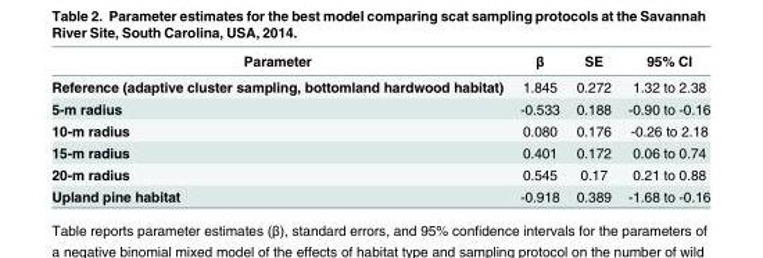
<table><thead><tr><td>Parameter</td><td>β</td><td>SE</td><td>95% CI</td></tr></thead><tbody><tr><td>Reference (adaptive cluster sampling, bottomland hardwood habitat)</td><td>1.845</td><td>0.272</td><td>1.32 to 2.38</td></tr><tr><td>5-m radius</td><td>-0.533</td><td>0.188</td><td>-0.90 to -0.16</td></tr><tr><td>10-m radius</td><td>0.080</td><td>0.176</td><td>-0.26 to 2.18</td></tr><tr><td>15-m radius</td><td>0.401</td><td>0.172</td><td>0.06 to 0.74</td></tr><tr><td>20-m radius</td><td>0.545</td><td>0.17</td><td>0.21 to 0.88</td></tr><tr><td>Upland pine habitat</td><td>-0.918</td><td>0.389</td><td>-1.68 to -0.16</td></tr></tbody></table>